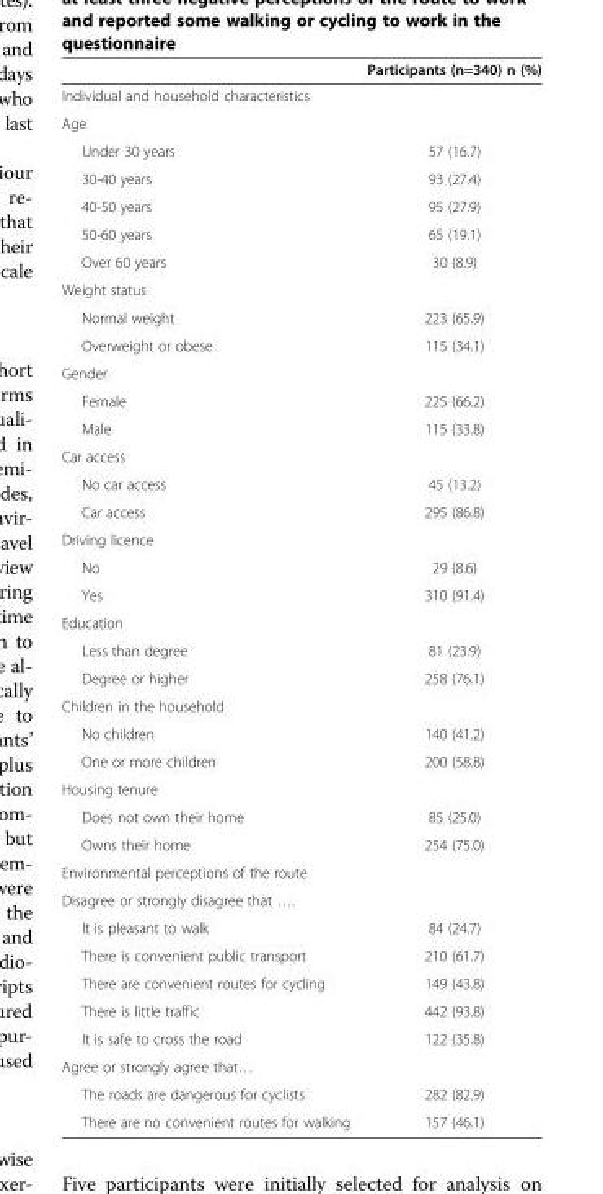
<table><thead><tr><td></td><td>Participants (n=340) n (%)</td></tr></thead><tbody><tr><td colspan="2">Individual and household characteristics</td></tr><tr><td colspan="2">Age</td></tr><tr><td>Under 30 years</td><td>57 (16.7)</td></tr><tr><td>30-40 years</td><td>93 (27.4)</td></tr><tr><td>40-50 years</td><td>95 (27.9)</td></tr><tr><td>50-60 years</td><td>65 (19.1)</td></tr><tr><td>Over 60 years</td><td>30 (8.9)</td></tr><tr><td colspan="2">Weight status</td></tr><tr><td>Normal weight</td><td>223 (65.9)</td></tr><tr><td>Overweight or obese</td><td>115 (34.1)</td></tr><tr><td colspan="2">Gender</td></tr><tr><td>Female</td><td>225 (66.2)</td></tr><tr><td>Male</td><td>115 (33.8)</td></tr><tr><td colspan="2">Car access</td></tr><tr><td>No car access</td><td>45 (13.2)</td></tr><tr><td>Car access</td><td>295 (86.8)</td></tr><tr><td colspan="2">Driving licence</td></tr><tr><td>No</td><td>29 (8.6)</td></tr><tr><td>Yes</td><td>310 (91.4)</td></tr><tr><td colspan="2">Education</td></tr><tr><td>Less than degree</td><td>81 (23.9)</td></tr><tr><td>Degree or higher</td><td>258 (76.1)</td></tr><tr><td colspan="2">Children in the household</td></tr><tr><td>No children</td><td>140 (41.2)</td></tr><tr><td>One or more children</td><td>200 (58.8)</td></tr><tr><td colspan="2">Housing tenure</td></tr><tr><td>Does not own their home</td><td>85 (25.0)</td></tr><tr><td>Owns their home</td><td>254 (75.0)</td></tr><tr><td colspan="2">Environmental perceptions of the route</td></tr><tr><td colspan="2">Disagree or strongly disagree that ….</td></tr><tr><td>It is pleasant to walk</td><td>84 (24.7)</td></tr><tr><td>There is convenient public transport</td><td>210 (61.7)</td></tr><tr><td>There are convenient routes for cycling</td><td>149 (43.8)</td></tr><tr><td>There is little traffic</td><td>442 (93.8)</td></tr><tr><td>It is safe to cross the road</td><td>122 (35.8)</td></tr><tr><td colspan="2">Agree or strongly agree that…</td></tr><tr><td>The roads are dangerous for cyclists</td><td>282 (82.9)</td></tr><tr><td>There are no convenient routes for walking</td><td>157 (46.1)</td></tr></tbody></table>